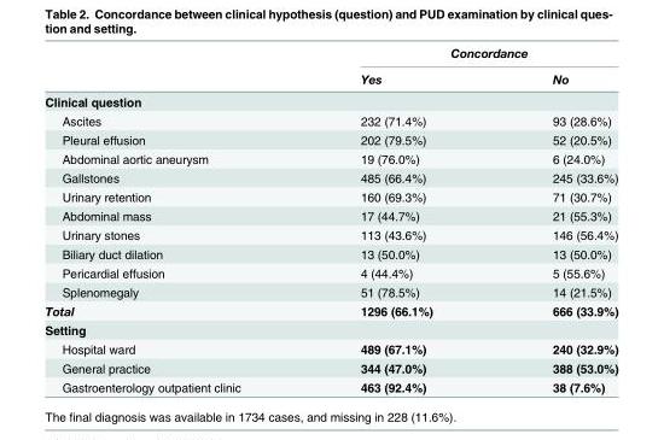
<table><thead><tr><td rowspan="2"></td><td colspan="2">Concordance</td></tr><tr><td>Yes</td><td>No</td></tr></thead><tbody><tr><td colspan="3">Clinical question</td></tr><tr><td>Ascites</td><td>232 (71.4%)</td><td>93 (28.6%)</td></tr><tr><td>Pleural effusion</td><td>202 (79.5%)</td><td>52 (20.5%)</td></tr><tr><td>Abdominal aortic aneurysm</td><td>19 (76.0%)</td><td>6 (24.0%)</td></tr><tr><td>Gallstones</td><td>485 (66.4%)</td><td>245 (33.6%)</td></tr><tr><td>Urinary retention</td><td>160 (69.3%)</td><td>71 (30.7%)</td></tr><tr><td>Abdominal mass</td><td>17 (44.7%)</td><td>21 (55.3%)</td></tr><tr><td>Urinary stones</td><td>113 (43.6%)</td><td>146 (56.4%)</td></tr><tr><td>Biliary duct dilation</td><td>13 (50.0%)</td><td>13 (50.0%)</td></tr><tr><td>Pericardial effusion</td><td>4 (44.4%)</td><td>5 (55.6%)</td></tr><tr><td>Splenomegaly</td><td>51 (78.5%)</td><td>14 (21.5%)</td></tr><tr><td>Total</td><td>1296 (66.1%)</td><td>666 (33.9%)</td></tr><tr><td colspan="3">Setting</td></tr><tr><td>Hospital ward</td><td>489 (67.1%)</td><td>240 (32.9%)</td></tr><tr><td>General practice</td><td>344 (47.0%)</td><td>388 (53.0%)</td></tr><tr><td>Gastroenterology outpatient clinic</td><td>463 (92.4%)</td><td>38 (7.6%)</td></tr></tbody></table>